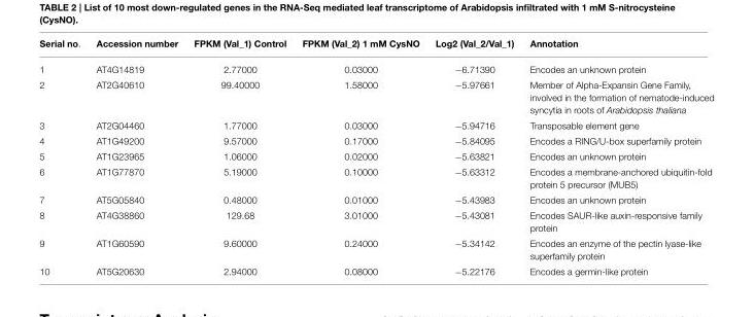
<table><thead><tr><td>Serial no.</td><td>Accession number</td><td>FPKM (Val_1) Control</td><td>FPKM (Val_2) 1 mM CysNO</td><td>Log2 (Val_2/Val_1)</td><td>Annotation</td></tr></thead><tbody><tr><td>1</td><td>AT4G14819</td><td>2.77000</td><td>0.03000</td><td>−6.71390</td><td>Encodes an unknown protein</td></tr><tr><td>2</td><td>AT2G40610</td><td>99.40000</td><td>1.58000</td><td>−5.97661</td><td>Member of Alpha-Expansin Gene Family, involved in the formation of nematode-induced syncytia in roots of Arabidopsis thaliana</td></tr><tr><td>3</td><td>AT2G04460</td><td>1.77000</td><td>0.03000</td><td>−5.94716</td><td>Transposable element gene</td></tr><tr><td>4</td><td>AT1G49200</td><td>9.57000</td><td>0.17000</td><td>−5.84095</td><td>Encodes a RING/U-box superfamily protein</td></tr><tr><td>5</td><td>AT1G23965</td><td>1.06000</td><td>0.02000</td><td>−5.63821</td><td>Encodes an unknown protein</td></tr><tr><td>6</td><td>AT1G77870</td><td>5.19000</td><td>0.10000</td><td>−5.63312</td><td>Encodes a membrane-anchored ubiquitin-fold protein 5 precursor (MUB5)</td></tr><tr><td>7</td><td>AT5G05840</td><td>0.48000</td><td>0.01000</td><td>−5.43983</td><td>Encodes an unknown protein</td></tr><tr><td>8</td><td>AT4G38860</td><td>129.68</td><td>3.01000</td><td>−5.43081</td><td>Encodes SAUR-like auxin-responsive family protein</td></tr><tr><td>9</td><td>AT1G60590</td><td>9.60000</td><td>0.24000</td><td>−5.34142</td><td>Encodes an enzyme of the pectin lyase-like superfamily protein</td></tr><tr><td>10</td><td>AT5G20630</td><td>2.94000</td><td>0.08000</td><td>−5.22176</td><td>Encodes a germin-like protein</td></tr></tbody></table>